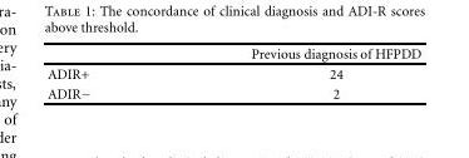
<table><thead><tr><td></td><td>Previous diagnosis of HFPDD</td></tr></thead><tbody><tr><td>ADIR+</td><td>24</td></tr><tr><td>ADIR−</td><td>2</td></tr></tbody></table>